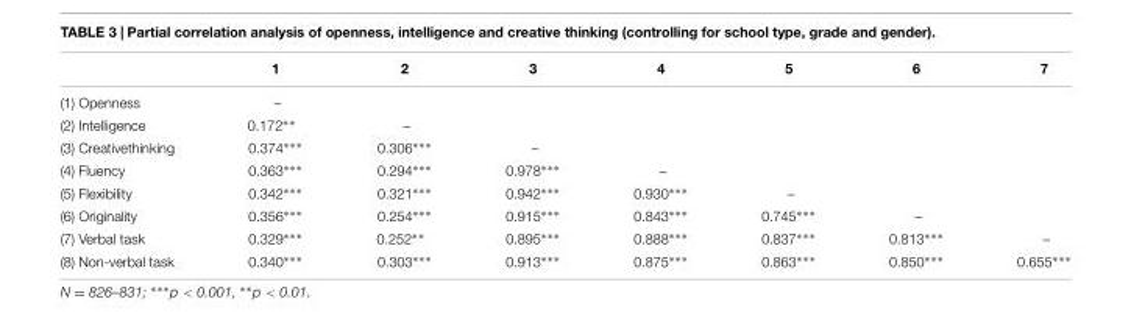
<table><thead><tr><td></td><td>1</td><td>2</td><td>3</td><td>4</td><td>5</td><td>6</td><td>7</td></tr></thead><tbody><tr><td>(1) Openness</td><td>–</td><td></td><td></td><td></td><td></td><td></td><td></td></tr><tr><td>(2) Intelligence</td><td>0.172∗∗</td><td>–</td><td></td><td></td><td></td><td></td><td></td></tr><tr><td>(3) Creativethinking</td><td>0.374∗∗∗</td><td>0.306∗∗∗</td><td>–</td><td></td><td></td><td></td><td></td></tr><tr><td>(4) Fluency</td><td>0.363∗∗∗</td><td>0.294∗∗∗</td><td>0.978∗∗∗</td><td>–</td><td></td><td></td><td></td></tr><tr><td>(5) Flexibility</td><td>0.342∗∗∗</td><td>0.321∗∗∗</td><td>0.942∗∗∗</td><td>0.930∗∗∗</td><td>–</td><td></td><td></td></tr><tr><td>(6) Originality</td><td>0.356∗∗∗</td><td>0.254∗∗∗</td><td>0.915∗∗∗</td><td>0.843∗∗∗</td><td>0.745∗∗∗</td><td>–</td><td></td></tr><tr><td>(7) Verbal task</td><td>0.329∗∗∗</td><td>0.252∗∗</td><td>0.895∗∗∗</td><td>0.888∗∗∗</td><td>0.837∗∗∗</td><td>0.813∗∗∗</td><td>–</td></tr><tr><td>(8) Non-verbal task</td><td>0.340∗∗∗</td><td>0.303∗∗∗</td><td>0.913∗∗∗</td><td>0.875∗∗∗</td><td>0.863∗∗∗</td><td>0.850∗∗∗</td><td>0.655∗∗∗</td></tr></tbody></table>